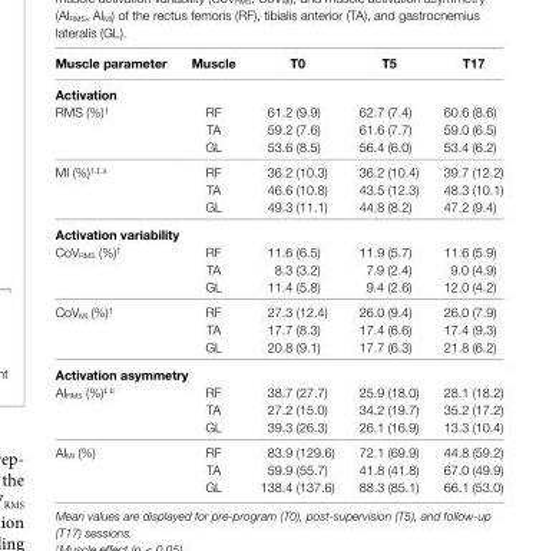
<table><thead><tr><td>Muscle parameter</td><td>Muscle</td><td>T0</td><td>T5</td><td>T17</td></tr></thead><tbody><tr><td colspan="5">activation</td></tr><tr><td rowspan="3">RMS (%)<sup>†</sup></td><td>RF</td><td>61.2 (9.9)</td><td>62.7 (7.4)</td><td>60.6 (8.6)</td></tr><tr><td>TA</td><td>59.2 (7.6)</td><td>61.6 (7.7)</td><td>59.0 (6.5)</td></tr><tr><td>GL</td><td>53.6 (8.5)</td><td>56.4 (6.0)</td><td>53.4 (6.2)</td></tr><tr><td rowspan="3">MI (%)<sup>†</sup>,<sup>‡</sup>,<sup>a</sup></td><td>RF</td><td>36.2 (10.3)</td><td>36.2 (10.4)</td><td>39.7 (12.2)</td></tr><tr><td>TA</td><td>46.6 (10.8)</td><td>43.5 (12.3)</td><td>48.3 (10.1)</td></tr><tr><td>GL</td><td>49.3 (11.1)</td><td>44.8 (8.2)</td><td>47.2 (9.4)</td></tr><tr><td colspan="5">activation variability</td></tr><tr><td rowspan="3">CoV<sub>RMS</sub> (%)<sup>†</sup></td><td>RF</td><td>11.6 (6.5)</td><td>11.9 (5.7)</td><td>11.6 (5.9)</td></tr><tr><td>TA</td><td>8.3 (3.2)</td><td>7.9 (2.4)</td><td>9.0 (4.9)</td></tr><tr><td>GL</td><td>11.4 (5.8)</td><td>9.4 (2.6)</td><td>12.0 (4.2)</td></tr><tr><td rowspan="3">CoV<sub>MI</sub> (%)<sup>†</sup></td><td>RF</td><td>27.3 (12.4)</td><td>26.0 (9.4)</td><td>26.0 (7.9)</td></tr><tr><td>TA</td><td>17.7 (8.3)</td><td>17.4 (6.6)</td><td>17.4 (9.3)</td></tr><tr><td>GL</td><td>20.8 (9.1)</td><td>17.7 (6.3)</td><td>21.8 (6.2)</td></tr><tr><td colspan="5">activation asymmetry</td></tr><tr><td rowspan="3">AI<sub>RMS</sub> (%)<sup>‡</sup>,<sup>b</sup></td><td>RF</td><td>38.7 (27.7)</td><td>25.9 (18.0)</td><td>28.1 (18.2)</td></tr><tr><td>TA</td><td>27.2 (15.0)</td><td>34.2 (19.7)</td><td>35.2 (17.2)</td></tr><tr><td>GL</td><td>39.3 (26.3)</td><td>26.1 (16.9)</td><td>13.3 (10.4)</td></tr><tr><td rowspan="3">AI<sub>MI</sub> (%)</td><td>RF</td><td>83.9 (129.6)</td><td>72.1 (69.9)</td><td>44.8 (59.2)</td></tr><tr><td>TA</td><td>59.9 (55.7)</td><td>41.8 (41.8)</td><td>67.0 (49.9)</td></tr><tr><td>GL</td><td>138.4 (137.6)</td><td>88.3 (85.1)</td><td>66.1 (53.0)</td></tr></tbody></table>